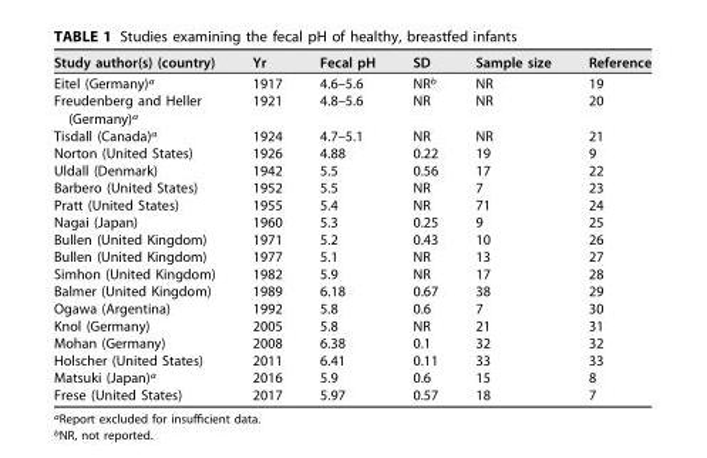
<table><thead><tr><td>Study author(s) (country)</td><td>Yr</td><td>Fecal pH</td><td>SD</td><td>Sample size</td><td>Reference</td></tr></thead><tbody><tr><td>Eitel (Germany)<sup>a</sup></td><td>1917</td><td>4.6–5.6</td><td>NR<sup>b</sup></td><td>NR</td><td>19</td></tr><tr><td>Freudenberg and Heller (Germany)<sup>a</sup></td><td>1921</td><td>4.8–5.6</td><td>NR</td><td>NR</td><td>20</td></tr><tr><td>Tisdall (Canada)<sup>a</sup></td><td>1924</td><td>4.7–5.1</td><td>NR</td><td>NR</td><td>21</td></tr><tr><td>Norton (United States)</td><td>1926</td><td>4.88</td><td>0.22</td><td>19</td><td>9</td></tr><tr><td>Uldall (Denmark)</td><td>1942</td><td>5.5</td><td>0.56</td><td>17</td><td>22</td></tr><tr><td>Barbero (United States)</td><td>1952</td><td>5.5</td><td>NR</td><td>7</td><td>23</td></tr><tr><td>Pratt (United States)</td><td>1955</td><td>5.4</td><td>NR</td><td>71</td><td>24</td></tr><tr><td>Nagai (Japan)</td><td>1960</td><td>5.3</td><td>0.25</td><td>9</td><td>25</td></tr><tr><td>Bullen (United Kingdom)</td><td>1971</td><td>5.2</td><td>0.43</td><td>10</td><td>26</td></tr><tr><td>Bullen (United Kingdom)</td><td>1977</td><td>5.1</td><td>NR</td><td>13</td><td>27</td></tr><tr><td>Simhon (United Kingdom)</td><td>1982</td><td>5.9</td><td>NR</td><td>17</td><td>28</td></tr><tr><td>Balmer (United Kingdom)</td><td>1989</td><td>6.18</td><td>0.67</td><td>38</td><td>29</td></tr><tr><td>Ogawa (Argentina)</td><td>1992</td><td>5.8</td><td>0.6</td><td>7</td><td>30</td></tr><tr><td>Knol (Germany)</td><td>2005</td><td>5.8</td><td>NR</td><td>21</td><td>31</td></tr><tr><td>Mohan (Germany)</td><td>2008</td><td>6.38</td><td>0.1</td><td>32</td><td>32</td></tr><tr><td>Holscher (United States)</td><td>2011</td><td>6.41</td><td>0.11</td><td>33</td><td>33</td></tr><tr><td>Matsuki (Japan)<sup>a</sup></td><td>2016</td><td>5.9</td><td>0.6</td><td>15</td><td>8</td></tr><tr><td>Frese (United States)</td><td>2017</td><td>5.97</td><td>0.57</td><td>18</td><td>7</td></tr></tbody></table>